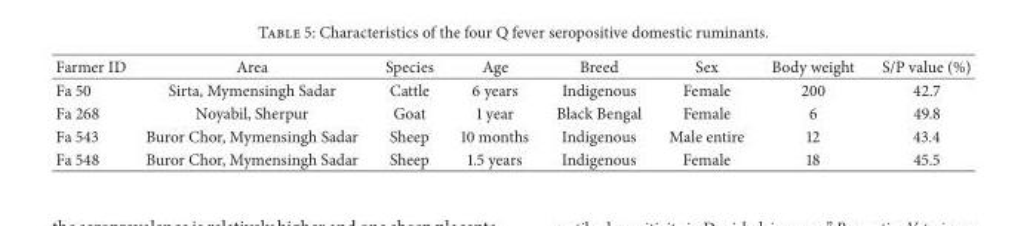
<table><thead><tr><td>Farmer ID</td><td>Area</td><td>Species</td><td>Age</td><td>Breed</td><td>Sex</td><td>Body weight</td><td>S/P value (%)</td></tr></thead><tbody><tr><td>Fa 50</td><td>Sirta, Mymensingh Sadar</td><td>Cattle</td><td>6 years</td><td>Indigenous</td><td>Female</td><td>200</td><td>42.7</td></tr><tr><td>Fa 268</td><td>Noyabil, Sherpur</td><td>Goat</td><td>1 year</td><td>Black Bengal</td><td>Female</td><td>6</td><td>49.8</td></tr><tr><td>Fa 543</td><td>Buror Chor, Mymensingh Sadar</td><td>Sheep</td><td>10 months</td><td>Indigenous</td><td>Male entire</td><td>12</td><td>43.4</td></tr><tr><td>Fa 548</td><td>Buror Chor, Mymensingh Sadar</td><td>Sheep</td><td>1.5 years</td><td>Indigenous</td><td>Female</td><td>18</td><td>45.5</td></tr></tbody></table>